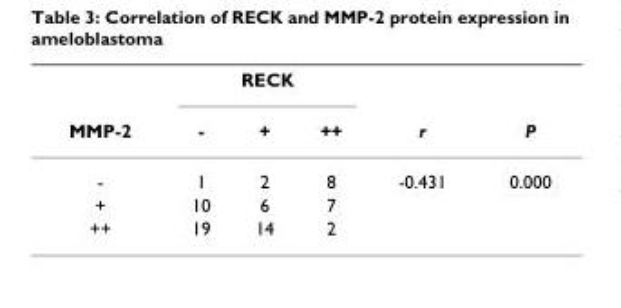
<table><thead><tr><td rowspan="2">MMP-2</td><td colspan="3">RECK</td><td rowspan="2">r</td><td rowspan="2">P</td></tr><tr><td>-</td><td>+</td><td>++</td></tr></thead><tbody><tr><td>-</td><td>1</td><td>2</td><td>8</td><td>-0.431</td><td>0.000</td></tr><tr><td>+</td><td>10</td><td>6</td><td>7</td><td></td><td></td></tr><tr><td>++</td><td>19</td><td>14</td><td>2</td><td></td><td></td></tr></tbody></table>